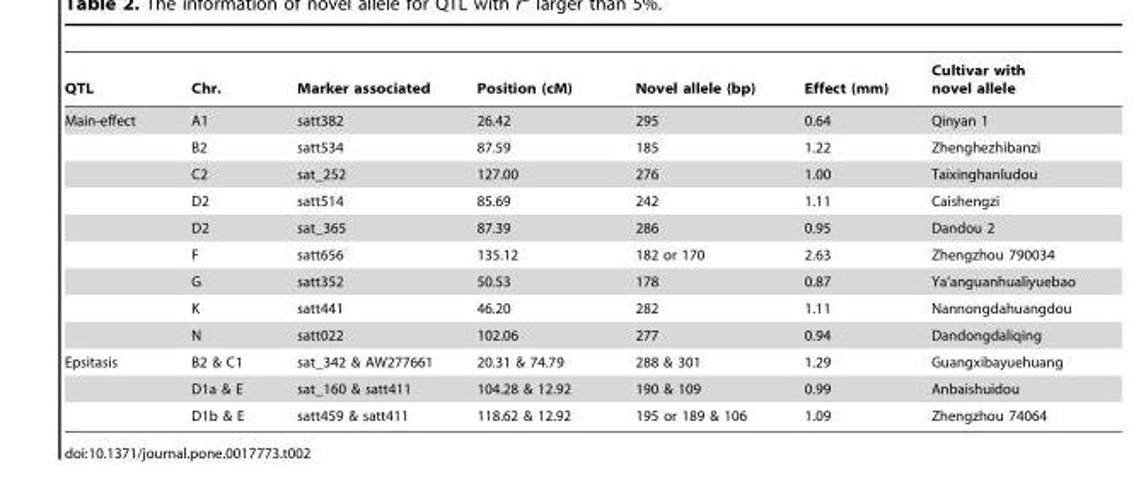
<table><thead><tr><td>QTL</td><td>Chr.</td><td>Marker associated</td><td>Position (cM)</td><td>Novel allele (bp)</td><td>Effect (mm)</td><td>Cultivar with novel allele</td></tr></thead><tbody><tr><td rowspan="9">Main-effect</td><td>A1</td><td>satt382</td><td>26.42</td><td>295</td><td>0.64</td><td>Qinyan 1</td></tr><tr><td>B2</td><td>satt534</td><td>87.59</td><td>185</td><td>1.22</td><td>Zhenghezhibanzi</td></tr><tr><td>C2</td><td>sat_252</td><td>127.00</td><td>276</td><td>1.00</td><td>Taixinghanludou</td></tr><tr><td>D2</td><td>satt514</td><td>85.69</td><td>242</td><td>1.11</td><td>Caishengzi</td></tr><tr><td>D2</td><td>sat_365</td><td>87.39</td><td>286</td><td>0.95</td><td>Dandou 2</td></tr><tr><td>F</td><td>satt656</td><td>135.12</td><td>182 or 170</td><td>2.63</td><td>Zhengzhou 790034</td></tr><tr><td>G</td><td>satt352</td><td>50.53</td><td>178</td><td>0.87</td><td>Ya’anguanhualiyuebao</td></tr><tr><td>K</td><td>satt441</td><td>46.20</td><td>282</td><td>1.11</td><td>Nannongdahuangdou</td></tr><tr><td>N</td><td>satt022</td><td>102.06</td><td>277</td><td>0.94</td><td>Dandongdaliqing</td></tr><tr><td rowspan="3">Epsitasis</td><td>B2 &amp; C1</td><td>sat_342 &amp; AW277661</td><td>20.31 &amp; 74.79</td><td>288 &amp; 301</td><td>1.29</td><td>Guangxibayuehuang</td></tr><tr><td>D1a &amp; E</td><td>sat_160 &amp; satt411</td><td>104.28 &amp; 12.92</td><td>190 &amp; 109</td><td>0.99</td><td>Anbaishuidou</td></tr><tr><td>D1b &amp; E</td><td>satt459 &amp; satt411</td><td>118.62 &amp; 12.92</td><td>195 or 189 &amp; 106</td><td>1.09</td><td>Zhengzhou 74064</td></tr></tbody></table>